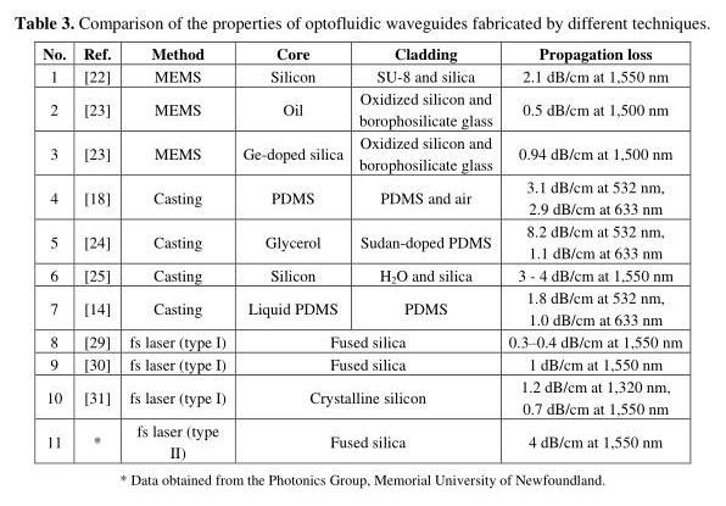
<table><thead><tr><td>No.</td><td>Ref.</td><td>Method</td><td>Core</td><td>Cladding</td><td>Propagation loss</td></tr></thead><tbody><tr><td>1</td><td>[22]</td><td>MEMS</td><td>Silicon</td><td>SU-8 and silica</td><td>2.1 dB/cm at 1,550 nm</td></tr><tr><td>2</td><td>[23]</td><td>MEMS</td><td>Oil</td><td>Oxidized silicon and borophosilicate glass</td><td>0.5 dB/cm at 1,500 nm</td></tr><tr><td>3</td><td>[23]</td><td>MEMS</td><td>Ge-doped silica</td><td>Oxidized silicon and borophosilicate glass</td><td>0.94 dB/cm at 1,500 nm</td></tr><tr><td>4</td><td>[18]</td><td>Casting</td><td>PDMS</td><td>PDMS and air</td><td>3.1 dB/cm at 532 nm, 2.9 dB/cm at 633 nm</td></tr><tr><td>5</td><td>[24]</td><td>Casting</td><td>Glycerol</td><td>Sudan-doped PDMS</td><td>8.2 dB/cm at 532 nm, 1.1 dB/cm at 633 nm</td></tr><tr><td>6</td><td>[25]</td><td>Casting</td><td>Silicon</td><td>H<sub>2</sub>O and silica</td><td>3 - 4 dB/cm at 1,550 nm</td></tr><tr><td>7</td><td>[14]</td><td>Casting</td><td>Liquid PDMS</td><td>PDMS</td><td>1.8 dB/cm at 532 nm, 1.0 dB/cm at 633 nm</td></tr><tr><td>8</td><td>[29]</td><td>fs laser (type I)</td><td colspan="2">Fused silica</td><td>0.3–0.4 dB/cm at 1,550 nm</td></tr><tr><td>9</td><td>[30]</td><td>fs laser (type I)</td><td colspan="2">Fused silica</td><td>1 dB/cm at 1,550 nm</td></tr><tr><td>10</td><td>[31]</td><td>fs laser (type I)</td><td colspan="2">Crystalline silicon</td><td>1.2 dB/cm at 1,320 nm, 0.7 dB/cm at 1,550 nm</td></tr><tr><td>11</td><td>*</td><td>fs laser (type II)</td><td colspan="2">Fused silica</td><td>4 dB/cm at 1,550 nm</td></tr></tbody></table>